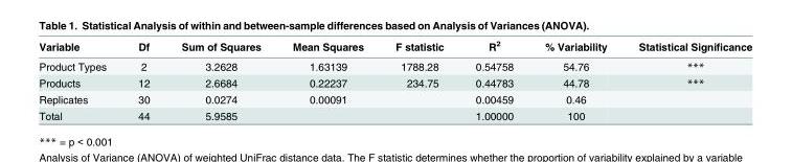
<table><thead><tr><td>Variable</td><td>Df</td><td>Sum of Squares</td><td>Mean Squares</td><td>F statistic</td><td>R<sup>2</sup></td><td>% Variability</td><td>Statistical Significance</td></tr></thead><tbody><tr><td>Product Types</td><td>2</td><td>3.2628</td><td>1.63139</td><td>1788.28</td><td>0.54758</td><td>54.76</td><td>***</td></tr><tr><td>Products</td><td>12</td><td>2.6684</td><td>0.22237</td><td>234.75</td><td>0.44783</td><td>44.78</td><td>***</td></tr><tr><td>Replicates</td><td>30</td><td>0.0274</td><td>0.00091</td><td></td><td>0.00459</td><td>0.46</td><td></td></tr><tr><td>Total</td><td>44</td><td>5.9585</td><td></td><td></td><td>1.00000</td><td>100</td><td></td></tr></tbody></table>